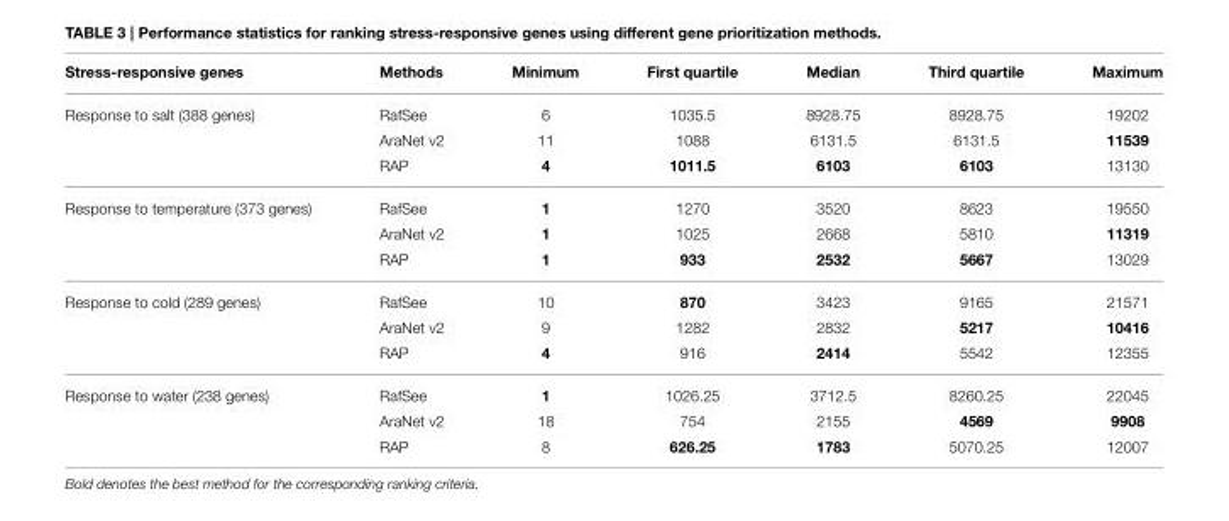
<table><thead><tr><td>Stress-responsive genes</td><td>Methods</td><td>Minimum</td><td>First quartile</td><td>Median</td><td>Third quartile</td><td>Maximum</td></tr></thead><tbody><tr><td rowspan="3">Response to salt (388 genes)</td><td>RafSee</td><td>6</td><td>1035.5</td><td>8928.75</td><td>8928.75</td><td>19202</td></tr><tr><td>AraNet v2</td><td>11</td><td>1088</td><td>6131.5</td><td>6131.5</td><td>11539</td></tr><tr><td>RAP</td><td>4</td><td>1011.5</td><td>6103</td><td>6103</td><td>13130</td></tr><tr><td rowspan="3">Response to temperature (373 genes)</td><td>RafSee</td><td>1</td><td>1270</td><td>3520</td><td>8623</td><td>19550</td></tr><tr><td>AraNet v2</td><td>1</td><td>1025</td><td>2668</td><td>5810</td><td>11319</td></tr><tr><td>RAP</td><td>1</td><td>933</td><td>2532</td><td>5667</td><td>13029</td></tr><tr><td rowspan="3">Response to cold (289 genes)</td><td>RafSee</td><td>10</td><td>870</td><td>3423</td><td>9165</td><td>21571</td></tr><tr><td>AraNet v2</td><td>9</td><td>1282</td><td>2832</td><td>5217</td><td>10416</td></tr><tr><td>RAP</td><td>4</td><td>916</td><td>2414</td><td>5542</td><td>12355</td></tr><tr><td rowspan="3">Response to water (238 genes)</td><td>RafSee</td><td>1</td><td>1026.25</td><td>3712.5</td><td>8260.25</td><td>22045</td></tr><tr><td>AraNet v2</td><td>18</td><td>754</td><td>2155</td><td>4569</td><td>9908</td></tr><tr><td>RAP</td><td>8</td><td>626.25</td><td>1783</td><td>5070.25</td><td>12007</td></tr></tbody></table>